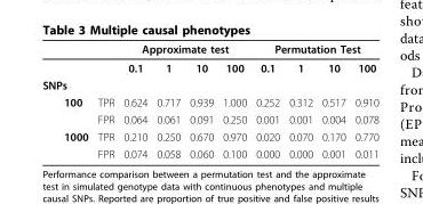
<table><thead><tr><td rowspan="2"></td><td rowspan="2"></td><td colspan="4">Approximate test</td><td colspan="4">Permutation Test</td></tr><tr><td>0.1</td><td>1</td><td>10</td><td>100</td><td>0.1</td><td>1</td><td>10</td><td>100</td></tr></thead><tbody><tr><td colspan="10">SNPs</td></tr><tr><td rowspan="2">100</td><td>TPR</td><td>0.624</td><td>0.717</td><td>0.939</td><td>1.000</td><td>0.252</td><td>0.312</td><td>0.517</td><td>0.910</td></tr><tr><td>FPR</td><td>0.064</td><td>0.061</td><td>0.091</td><td>0.250</td><td>0.001</td><td>0.001</td><td>0.004</td><td>0.078</td></tr><tr><td rowspan="2">1000</td><td>TPR</td><td>0.210</td><td>0.250</td><td>0.670</td><td>0.970</td><td>0.020</td><td>0.070</td><td>0.170</td><td>0.770</td></tr><tr><td>FPR</td><td>0.074</td><td>0.058</td><td>0.060</td><td>0.100</td><td>0.000</td><td>0.000</td><td>0.001</td><td>0.011</td></tr></tbody></table>